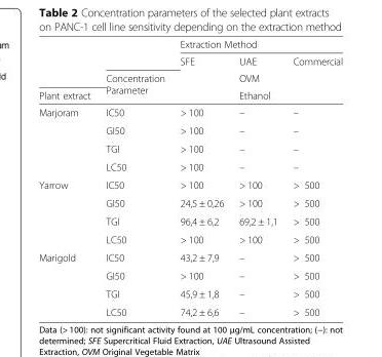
<table><thead><tr><td rowspan="4">Plant extract</td><td rowspan="4">Concentration Parameter</td><td colspan="3">Extraction Method</td></tr><tr><td rowspan="3">SFE</td><td rowspan="3">UAE OVM Ethanol</td><td rowspan="3">Commercial</td></tr><tr></tr><tr></tr></thead><tbody><tr><td rowspan="4">Marjoram</td><td>IC50</td><td>&gt; 100</td><td>–</td><td>–</td></tr><tr><td>GI50</td><td>&gt; 100</td><td>–</td><td>–</td></tr><tr><td>TGI</td><td>&gt; 100</td><td>–</td><td>–</td></tr><tr><td>LC50</td><td>&gt; 100</td><td>–</td><td>–</td></tr><tr><td rowspan="4">Yarrow</td><td>IC50</td><td>&gt; 100</td><td>&gt; 100</td><td>&gt; 500</td></tr><tr><td>GI50</td><td>24,5 ± 0,26</td><td>&gt; 100</td><td>&gt; 500</td></tr><tr><td>TGI</td><td>96,4 ± 6,2</td><td>69,2 ± 1,1</td><td>&gt; 500</td></tr><tr><td>LC50</td><td>&gt; 100</td><td>&gt; 100</td><td>&gt; 500</td></tr><tr><td rowspan="4">Marigold</td><td>IC50</td><td>43,2 ± 7,9</td><td>–</td><td>&gt; 500</td></tr><tr><td>GI50</td><td>&gt; 100</td><td>–</td><td>&gt; 500</td></tr><tr><td>TGI</td><td>45,9 ± 1,8</td><td>–</td><td>&gt; 500</td></tr><tr><td>LC50</td><td>74,2 ± 6,6</td><td>–</td><td>&gt; 500</td></tr></tbody></table>